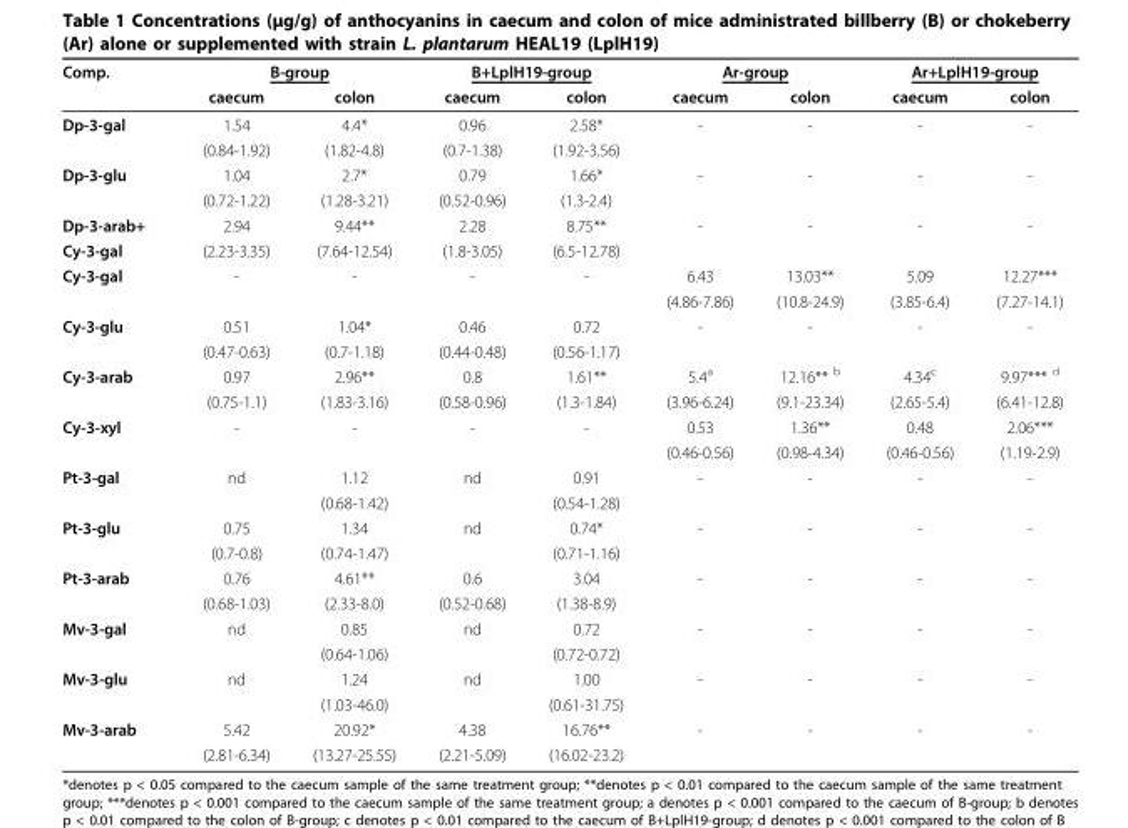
<table><thead><tr><td rowspan="2">Comp.</td><td colspan="2">B-group</td><td colspan="2">B+LplH19-group</td><td colspan="2">Ar-group</td><td colspan="2">Ar+LplH19-group</td></tr><tr><td>caecum</td><td>colon</td><td>caecum</td><td>colon</td><td>caecum</td><td>colon</td><td>caecum</td><td>colon</td></tr></thead><tbody><tr><td rowspan="2">Dp-3-gal</td><td>1.54</td><td>4.4*</td><td>0.96</td><td>2.58*</td><td>-</td><td>-</td><td>-</td><td>-</td></tr><tr><td>(0.84-1.92)</td><td>(1.82-4.8)</td><td>(0.7-1.38)</td><td>(1.92-3.56)</td><td></td><td></td><td></td><td></td></tr><tr><td rowspan="2">Dp-3-glu</td><td>1.04</td><td>2.7*</td><td>0.79</td><td>1.66*</td><td>-</td><td>-</td><td>-</td><td>-</td></tr><tr><td>(0.72-1.22)</td><td>(1.28-3.21)</td><td>(0.52-0.96)</td><td>(1.3-2.4)</td><td></td><td></td><td></td><td></td></tr><tr><td>Dp-3-arab+</td><td>2.94</td><td>9.44**</td><td>2.28</td><td>8.75**</td><td>-</td><td>-</td><td>-</td><td>-</td></tr><tr><td>Cy-3-gal</td><td>(2.23-3.35)</td><td>(7.64-12.54)</td><td>(1.8-3.05)</td><td>(6.5-12.78)</td><td></td><td></td><td></td><td></td></tr><tr><td rowspan="2">Cy-3-gal</td><td>-</td><td>-</td><td>-</td><td>-</td><td>6.43</td><td>13.03**</td><td>5.09</td><td>12.27***</td></tr><tr><td></td><td></td><td></td><td></td><td>(4.86-7.86)</td><td>(10.8-24.9)</td><td>(3.85-6.4)</td><td>(7.27-14.1)</td></tr><tr><td rowspan="2">Cy-3-glu</td><td>0.51</td><td>1.04*</td><td>0.46</td><td>0.72</td><td>-</td><td>-</td><td>-</td><td>-</td></tr><tr><td>(0.47-0.63)</td><td>(0.7-1.18)</td><td>(0.44-0.48)</td><td>(0.56-1.17)</td><td></td><td></td><td></td><td></td></tr><tr><td rowspan="2">Cy-3-arab</td><td>0.97</td><td>2.96**</td><td>0.8</td><td>1.61**</td><td>5.4<sup>a</sup></td><td>12.16** <sup>b</sup></td><td>4.34<sup>c</sup></td><td>9.97*** <sup>d</sup></td></tr><tr><td>(0.75-1.1)</td><td>(1.83-3.16)</td><td>(0.58-0.96)</td><td>(1.3-1.84)</td><td>(3.96-6.24)</td><td>(9.1-23.34)</td><td>(2.65-5.4)</td><td>(6.41-12.8)</td></tr><tr><td rowspan="2">Cy-3-xyl</td><td>-</td><td>-</td><td>-</td><td>-</td><td>0.53</td><td>1.36**</td><td>0.48</td><td>2.06***</td></tr><tr><td></td><td></td><td></td><td></td><td>(0.46-0.56)</td><td>(0.98-4.34)</td><td>(0.46-0.56)</td><td>(1.19-2.9)</td></tr><tr><td rowspan="2">Pt-3-gal</td><td>nd</td><td>1.12</td><td>nd</td><td>0.91</td><td>-</td><td>-</td><td>-</td><td>-</td></tr><tr><td></td><td>(0.68-1.42)</td><td></td><td>(0.54-1.28)</td><td></td><td></td><td></td><td></td></tr><tr><td rowspan="2">Pt-3-glu</td><td>0.75</td><td>1.34</td><td>nd</td><td>0.74*</td><td>-</td><td>-</td><td>-</td><td>-</td></tr><tr><td>(0.7-0.8)</td><td>(0.74-1.47)</td><td></td><td>(0.71-1.16)</td><td></td><td></td><td></td><td></td></tr><tr><td rowspan="2">Pt-3-arab</td><td>0.76</td><td>4.61**</td><td>0.6</td><td>3.04</td><td>-</td><td>-</td><td>-</td><td>-</td></tr><tr><td>(0.68-1.03)</td><td>(2.33-8.0)</td><td>(0.52-0.68)</td><td>(1.38-8.9)</td><td></td><td></td><td></td><td></td></tr><tr><td rowspan="2">Mv-3-gal</td><td>nd</td><td>0.85</td><td>nd</td><td>0.72</td><td>-</td><td>-</td><td>-</td><td>-</td></tr><tr><td></td><td>(0.64-1.06)</td><td></td><td>(0.72-0.72)</td><td></td><td></td><td></td><td></td></tr><tr><td rowspan="2">Mv-3-glu</td><td>nd</td><td>1.24</td><td>nd</td><td>1.00</td><td>-</td><td>-</td><td>-</td><td>-</td></tr><tr><td></td><td>(1.03-46.0)</td><td></td><td>(0.61-31.75)</td><td></td><td></td><td></td><td></td></tr><tr><td rowspan="2">Mv-3-arab</td><td>5.42</td><td>20.92*</td><td>4.38</td><td>16.76**</td><td>-</td><td>-</td><td>-</td><td>-</td></tr><tr><td>(2.81-6.34)</td><td>(13.27-25.55)</td><td>(2.21-5.09)</td><td>(16.02-23.2)</td><td></td><td></td><td></td><td></td></tr></tbody></table>